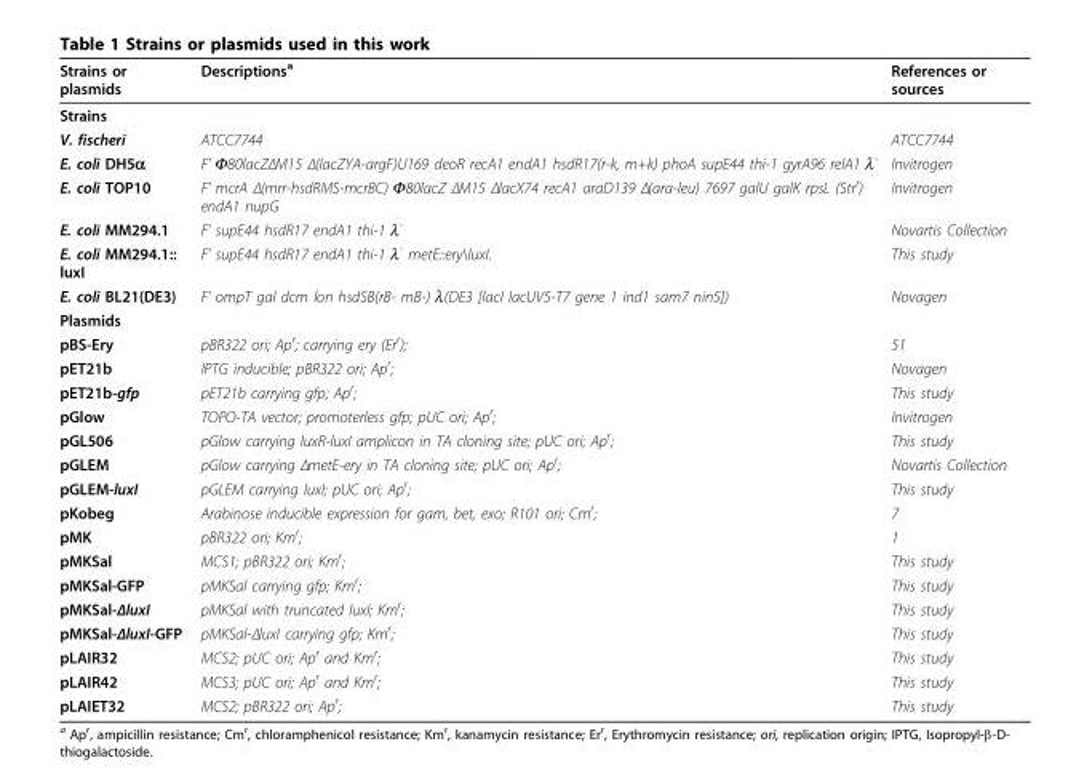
<table><thead><tr><td>Strains or plasmids</td><td>Descriptions<sup>a</sup></td><td>References or sources</td></tr></thead><tbody><tr><td colspan="3">Strains</td></tr><tr><td>V. fischeri</td><td>ATCC7744</td><td>ATCC7744</td></tr><tr><td>E. coli DH5α</td><td>F’ Φ80lacZΔM15 Δ(lacZYA-argF)U169 deoR recA1 endA1 hsdR17(r-k, m+k) phoA supE44 thi-1 gyrA96 relA1 λ<sup>-</sup></td><td>Invitrogen</td></tr><tr><td>E. coli TOP10</td><td>F’ mcrA Δ(mrr-hsdRMS-mcrBC) Φ80lacZ ΔM15 ΔlacΧ74 recA1 araD139 Δ(ara-leu) 7697 galU galK rpsL (Str<sup>r</sup>) endA1 nupG</td><td>Invitrogen</td></tr><tr><td>E. coli MM294.1</td><td>F’ supE44 hsdR17 endA1 thi-1 λ<sup>-</sup></td><td>Novartis Collection</td></tr><tr><td>E. coli MM294.1:: luxI</td><td>F’ supE44 hsdR17 endA1 thi-1 λ<sup>-</sup> metE::ery\luxI.</td><td>This study</td></tr><tr><td>E. coli BL21(DE3)</td><td>F’ ompT gal dcm lon hsdSB(rB- mB-) λ(DE3 [lacI lacUV5-T7 gene 1 ind1 sam7 nin5])</td><td>Novagen</td></tr><tr><td colspan="3">Plasmids</td></tr><tr><td>pBS-Ery</td><td>pBR322 ori; Ap<sup>r</sup>; carrying ery (Er<sup>r</sup>);</td><td>51</td></tr><tr><td>pET21b</td><td>IPTG inducible; pBR322 ori; Ap<sup>r</sup>;</td><td>Novagen</td></tr><tr><td>pET21b-gfp</td><td>pET21b carrying gfp; Ap<sup>r</sup>;</td><td>This study</td></tr><tr><td>pGlow</td><td>TOPO-TA vector; promoterless gfp; pUC ori; Ap<sup>r</sup>;</td><td>Invitrogen</td></tr><tr><td>pGL506</td><td>pGlow carrying luxR-luxI amplicon in TA cloning site; pUC ori; Ap<sup>r</sup>;</td><td>This study</td></tr><tr><td>pGLEM</td><td>pGlow carrying ΔmetE-ery in TA cloning site; pUC ori; Ap<sup>r</sup>;</td><td>Novartis Collection</td></tr><tr><td>pGLEM-luxI</td><td>pGLEM carrying luxI; pUC ori; Ap<sup>r</sup>;</td><td>This study</td></tr><tr><td>pKobeg</td><td>Arabinose inducible expression for gam, bet, exo; R101 ori; Cm<sup>r</sup>;</td><td>7</td></tr><tr><td>pMK</td><td>pBR322 ori; Km<sup>r</sup>;</td><td>1</td></tr><tr><td>pMKSal</td><td>MCS1; pBR322 ori; Km<sup>r</sup>;</td><td>This study</td></tr><tr><td>pMKSal-GFP</td><td>pMKSal carrying gfp; Km<sup>r</sup>;</td><td>This study</td></tr><tr><td>pMKSal-ΔluxI</td><td>pMKSal with truncated luxI; Km<sup>r</sup>;</td><td>This study</td></tr><tr><td>pMKSal-ΔluxI-GFP</td><td>pMKSal-ΔluxI carrying gfp; Km<sup>r</sup>;</td><td>This study</td></tr><tr><td>pLAIR32</td><td>MCS2; pUC ori; Ap<sup>r</sup> and Km<sup>r</sup>;</td><td>This study</td></tr><tr><td>pLAIR42</td><td>MCS3; pUC ori; Ap<sup>r</sup> and Km<sup>r</sup>;</td><td>This study</td></tr><tr><td>pLAIET32</td><td>MCS2; pBR322 ori; Ap<sup>r</sup>;</td><td>This study</td></tr></tbody></table>